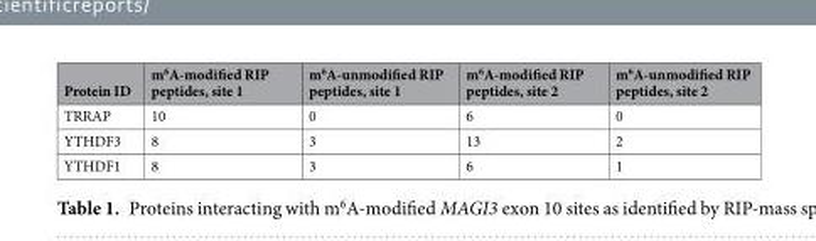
<table><thead><tr><td>Protein ID</td><td>m<sup>6</sup>A-modified RIP peptides, site 1</td><td>m<sup>6</sup>A-unmodified RIP peptides, site 1</td><td>m<sup>6</sup>A-modified RIP peptides, site 2</td><td>m<sup>6</sup>A-unmodified RIP peptides, site 2</td></tr></thead><tbody><tr><td>TRRAP</td><td>10</td><td>0</td><td>6</td><td>0</td></tr><tr><td>YTHDF3</td><td>8</td><td>3</td><td>13</td><td>2</td></tr><tr><td>YTHDF1</td><td>8</td><td>3</td><td>6</td><td>1</td></tr></tbody></table>